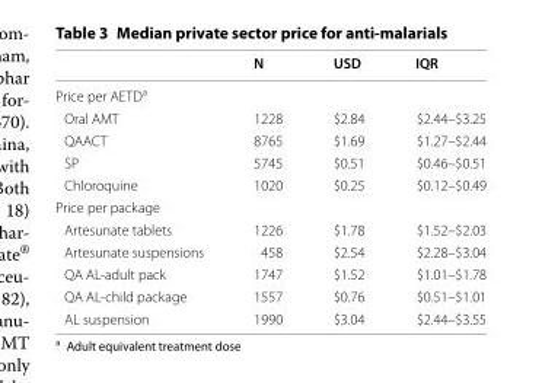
<table><thead><tr><td></td><td>N</td><td>USD</td><td>IQR</td></tr></thead><tbody><tr><td colspan="4">Price per AETD<sup>a</sup></td></tr><tr><td>Oral AMT</td><td>1228</td><td>$2.84</td><td>$2.44–$3.25</td></tr><tr><td>QAACT</td><td>8765</td><td>$1.69</td><td>$1.27–$2.44</td></tr><tr><td>SP</td><td>5745</td><td>$0.51</td><td>$0.46–$0.51</td></tr><tr><td>Chloroquine</td><td>1020</td><td>$0.25</td><td>$0.12–$0.49</td></tr><tr><td colspan="4">Price per package</td></tr><tr><td>Artesunate tablets</td><td>1226</td><td>$1.78</td><td>$1.52–$2.03</td></tr><tr><td>Artesunate suspensions</td><td>458</td><td>$2.54</td><td>$2.28–$3.04</td></tr><tr><td>QA AL-adult pack</td><td>1747</td><td>$1.52</td><td>$1.01–$1.78</td></tr><tr><td>QA AL-child package</td><td>1557</td><td>$0.76</td><td>$0.51–$1.01</td></tr><tr><td>AL suspension</td><td>1990</td><td>$3.04</td><td>$2.44–$3.55</td></tr></tbody></table>